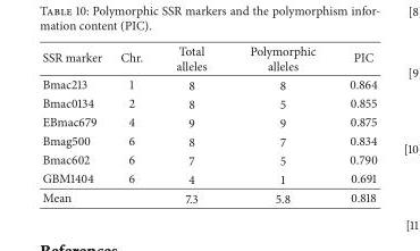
<table><thead><tr><td>SSR marker</td><td>Chr.</td><td>Total alleles</td><td>Polymorphic alleles</td><td>PIC</td></tr></thead><tbody><tr><td>Bmac213</td><td>1</td><td>8</td><td>8</td><td>0.864</td></tr><tr><td>Bmac0134</td><td>2</td><td>8</td><td>5</td><td>0.855</td></tr><tr><td>EBmac679</td><td>4</td><td>9</td><td>9</td><td>0.875</td></tr><tr><td>Bmag500</td><td>6</td><td>8</td><td>7</td><td>0.834</td></tr><tr><td>Bmac602</td><td>6</td><td>7</td><td>5</td><td>0.790</td></tr><tr><td>GBM1404</td><td>6</td><td>4</td><td>1</td><td>0.691</td></tr><tr><td>Mean</td><td></td><td>7.3</td><td>5.8</td><td>0.818</td></tr></tbody></table>